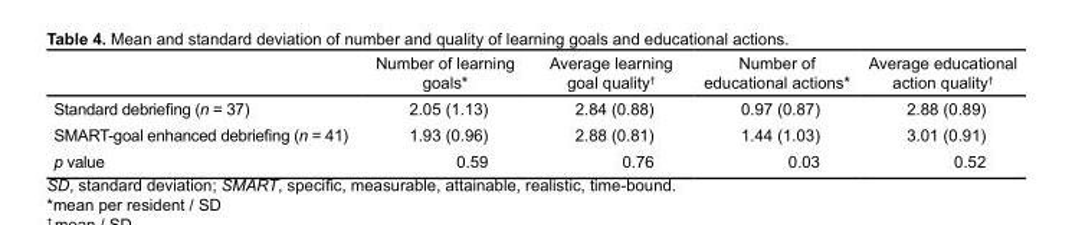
<table><thead><tr><td></td><td>Number of learning goals*</td><td>Average learning goal quality†</td><td>Number of educational actions*</td><td>Average educational action quality†</td></tr></thead><tbody><tr><td>Standard debriefing (n = 37)</td><td>2.05 (1.13)</td><td>2.84 (0.88)</td><td>0.97 (0.87)</td><td>2.88 (0.89)</td></tr><tr><td>SMART-goal enhanced debriefing (n = 41)</td><td>1.93 (0.96)</td><td>2.88 (0.81)</td><td>1.44 (1.03)</td><td>3.01 (0.91)</td></tr><tr><td>p value</td><td>0.59</td><td>0.76</td><td>0.03</td><td>0.52</td></tr></tbody></table>